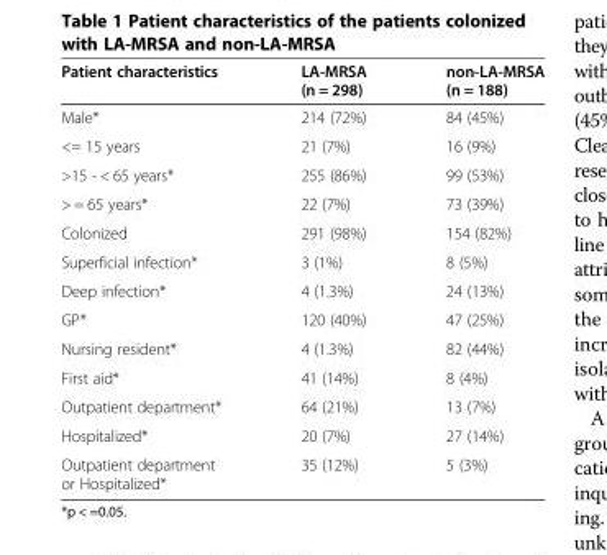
<table><thead><tr><td>Patient characteristics</td><td>LA-MRSA (n = 298)</td><td>non-LA-MRSA (n = 188)</td></tr></thead><tbody><tr><td>Male*</td><td>214 (72%)</td><td>84 (45%)</td></tr><tr><td>&lt;= 15 years</td><td>21 (7%)</td><td>16 (9%)</td></tr><tr><td>&gt;15 - &lt; 65 years*</td><td>255 (86%)</td><td>99 (53%)</td></tr><tr><td>&gt; = 65 years*</td><td>22 (7%)</td><td>73 (39%)</td></tr><tr><td>Colonized</td><td>291 (98%)</td><td>154 (82%)</td></tr><tr><td>Superficial infection*</td><td>3 (1%)</td><td>8 (5%)</td></tr><tr><td>Deep infection*</td><td>4 (1.3%)</td><td>24 (13%)</td></tr><tr><td>GP*</td><td>120 (40%)</td><td>47 (25%)</td></tr><tr><td>Nursing resident*</td><td>4 (1.3%)</td><td>82 (44%)</td></tr><tr><td>First aid*</td><td>41 (14%)</td><td>8 (4%)</td></tr><tr><td>Outpatient department*</td><td>64 (21%)</td><td>13 (7%)</td></tr><tr><td>Hospitalized*</td><td>20 (7%)</td><td>27 (14%)</td></tr><tr><td>Outpatient department or Hospitalized*</td><td>35 (12%)</td><td>5 (3%)</td></tr></tbody></table>